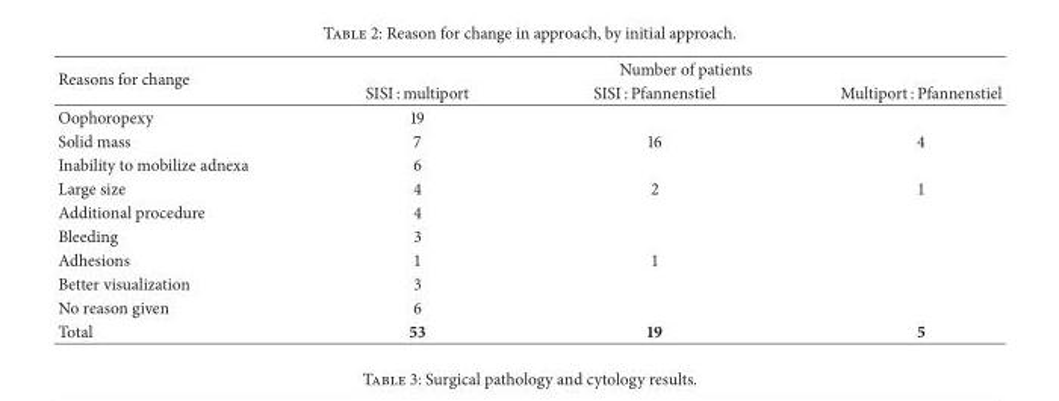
<table><thead><tr><td rowspan="2">Reasons for change</td><td colspan="3">Number of patients</td></tr><tr><td>SISI : multiport</td><td>SISI : Pfannenstiel</td><td>Multiport : Pfannenstiel</td></tr></thead><tbody><tr><td>Oophoropexy</td><td>19</td><td></td><td></td></tr><tr><td>Solid mass</td><td>7</td><td>16</td><td>4</td></tr><tr><td>Inability to mobilize adnexa</td><td>6</td><td></td><td></td></tr><tr><td>Large size</td><td>4</td><td>2</td><td>1</td></tr><tr><td>Additional procedure</td><td>4</td><td></td><td></td></tr><tr><td>Bleeding</td><td>3</td><td></td><td></td></tr><tr><td>Adhesions</td><td>1</td><td>1</td><td></td></tr><tr><td>Better visualization</td><td>3</td><td></td><td></td></tr><tr><td>No reason given</td><td>6</td><td></td><td></td></tr><tr><td>Total</td><td>53</td><td>19</td><td>5</td></tr></tbody></table>